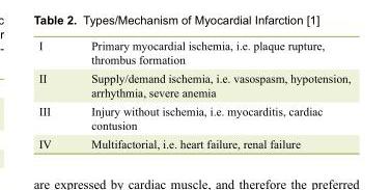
<table><tbody><tr><td>I</td><td>Primary myocardial ischemia, i.e. plaque rupture, thrombus formation</td></tr><tr><td>II</td><td>Supply/demand ischemia, i.e. vasospasm, hypotension, arrhythmia, severe anemia</td></tr><tr><td>III</td><td>Injury without ischemia, i.e. myocarditis, cardiac contusion</td></tr><tr><td>IV</td><td>Multifactorial, i.e. heart failure, renal failure</td></tr></tbody></table>